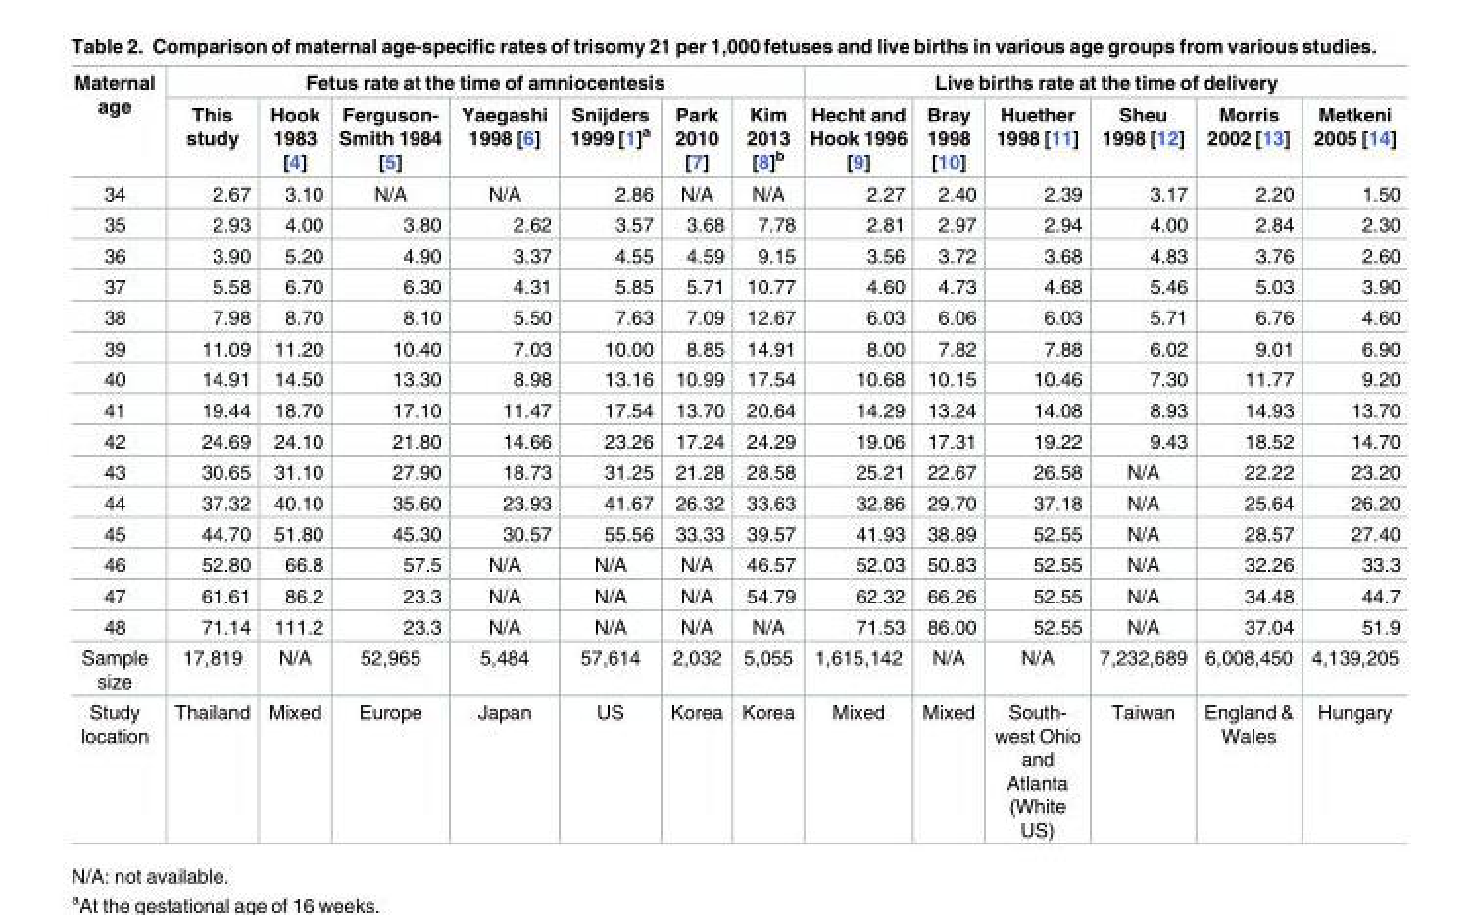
<table><thead><tr><td rowspan="2">Maternal age</td><td colspan="7">Fetus rate at the time of amniocentesis</td><td colspan="6">Live births rate at the time of delivery</td></tr><tr><td>This study</td><td>Hook 1983 [4]</td><td>Ferguson- Smith 1984 [5]</td><td>Yaegashi 1998 [6]</td><td>Snijders 1999 [1]<sup>a</sup></td><td>Park 2010 [7]</td><td>Kim 2013 [8]<sup>b</sup></td><td>Hecht and Hook 1996 [9]</td><td>Bray 1998 [10]</td><td>Huether 1998 [11]</td><td>Sheu 1998 [12]</td><td>Morris 2002 [13]</td><td>Metkeni 2005 [14]</td></tr></thead><tbody><tr><td>34</td><td>2.67</td><td>3.10</td><td>N/A</td><td>N/A</td><td>2.86</td><td>N/A</td><td>N/A</td><td>2.27</td><td>2.40</td><td>2.39</td><td>3.17</td><td>2.20</td><td>1.50</td></tr><tr><td>35</td><td>2.93</td><td>4.00</td><td>3.80</td><td>2.62</td><td>3.57</td><td>3.68</td><td>7.78</td><td>2.81</td><td>2.97</td><td>2.94</td><td>4.00</td><td>2.84</td><td>2.30</td></tr><tr><td>36</td><td>3.90</td><td>5.20</td><td>4.90</td><td>3.37</td><td>4.55</td><td>4.59</td><td>9.15</td><td>3.56</td><td>3.72</td><td>3.68</td><td>4.83</td><td>3.76</td><td>2.60</td></tr><tr><td>37</td><td>5.58</td><td>6.70</td><td>6.30</td><td>4.31</td><td>5.85</td><td>5.71</td><td>10.77</td><td>4.60</td><td>4.73</td><td>4.68</td><td>5.46</td><td>5.03</td><td>3.90</td></tr><tr><td>38</td><td>7.98</td><td>8.70</td><td>8.10</td><td>5.50</td><td>7.63</td><td>7.09</td><td>12.67</td><td>6.03</td><td>6.06</td><td>6.03</td><td>5.71</td><td>6.76</td><td>4.60</td></tr><tr><td>39</td><td>11.09</td><td>11.20</td><td>10.40</td><td>7.03</td><td>10.00</td><td>8.85</td><td>14.91</td><td>8.00</td><td>7.82</td><td>7.88</td><td>6.02</td><td>9.01</td><td>6.90</td></tr><tr><td>40</td><td>14.91</td><td>14.50</td><td>13.30</td><td>8.98</td><td>13.16</td><td>10.99</td><td>17.54</td><td>10.68</td><td>10.15</td><td>10.46</td><td>7.30</td><td>11.77</td><td>9.20</td></tr><tr><td>41</td><td>19.44</td><td>18.70</td><td>17.10</td><td>11.47</td><td>17.54</td><td>13.70</td><td>20.64</td><td>14.29</td><td>13.24</td><td>14.08</td><td>8.93</td><td>14.93</td><td>13.70</td></tr><tr><td>42</td><td>24.69</td><td>24.10</td><td>21.80</td><td>14.66</td><td>23.26</td><td>17.24</td><td>24.29</td><td>19.06</td><td>17.31</td><td>19.22</td><td>9.43</td><td>18.52</td><td>14.70</td></tr><tr><td>43</td><td>30.65</td><td>31.10</td><td>27.90</td><td>18.73</td><td>31.25</td><td>21.28</td><td>28.58</td><td>25.21</td><td>22.67</td><td>26.58</td><td>N/A</td><td>22.22</td><td>23.20</td></tr><tr><td>44</td><td>37.32</td><td>40.10</td><td>35.60</td><td>23.93</td><td>41.67</td><td>26.32</td><td>33.63</td><td>32.86</td><td>29.70</td><td>37.18</td><td>N/A</td><td>25.64</td><td>26.20</td></tr><tr><td>45</td><td>44.70</td><td>51.80</td><td>45.30</td><td>30.57</td><td>55.56</td><td>33.33</td><td>39.57</td><td>41.93</td><td>38.89</td><td>52.55</td><td>N/A</td><td>28.57</td><td>27.40</td></tr><tr><td>46</td><td>52.80</td><td>66.8</td><td>57.5</td><td>N/A</td><td>N/A</td><td>N/A</td><td>46.57</td><td>52.03</td><td>50.83</td><td>52.55</td><td>N/A</td><td>32.26</td><td>33.3</td></tr><tr><td>47</td><td>61.61</td><td>86.2</td><td>23.3</td><td>N/A</td><td>N/A</td><td>N/A</td><td>54.79</td><td>62.32</td><td>66.26</td><td>52.55</td><td>N/A</td><td>34.48</td><td>44.7</td></tr><tr><td>48</td><td>71.14</td><td>111.2</td><td>23.3</td><td>N/A</td><td>N/A</td><td>N/A</td><td>N/A</td><td>71.53</td><td>86.00</td><td>52.55</td><td>N/A</td><td>37.04</td><td>51.9</td></tr><tr><td>Sample size</td><td>17,819</td><td>N/A</td><td>52,965</td><td>5,484</td><td>57,614</td><td>2,032</td><td>5,055</td><td>1,615,142</td><td>N/A</td><td>N/A</td><td>7,232,689</td><td>6,008,450</td><td>4,139,205</td></tr><tr><td>Study location</td><td>Thailand</td><td>Mixed</td><td>Europe</td><td>Japan</td><td>US</td><td>Korea</td><td>Korea</td><td>Mixed</td><td>Mixed</td><td>South- west Ohio and Atlanta (White US)</td><td>Taiwan</td><td>England &amp; Wales</td><td>Hungary</td></tr></tbody></table>